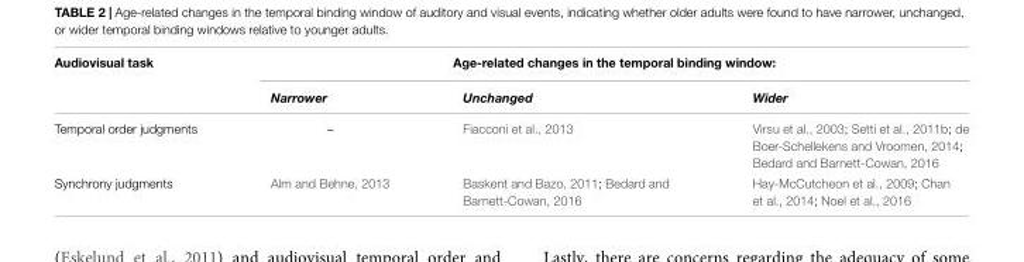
<table><thead><tr><td rowspan="2">Audiovisual task</td><td colspan="3">Age-related changes in the temporal binding window:</td></tr><tr><td>Narrower</td><td>Unchanged</td><td>Wider</td></tr></thead><tbody><tr><td>Temporal order judgments</td><td>–</td><td>Fiacconi et al., 2013</td><td>Virsu et al., 2003; Setti et al., 2011b; de Boer-Schellekens and Vroomen, 2014; Bedard and Barnett-Cowan, 2016</td></tr><tr><td>Synchrony judgments</td><td>Alm and Behne, 2013</td><td>Baskent and Bazo, 2011; Bedard and Barnett-Cowan, 2016</td><td>Hay-McCutcheon et al., 2009; Chan et al., 2014; Noel et al., 2016</td></tr></tbody></table>